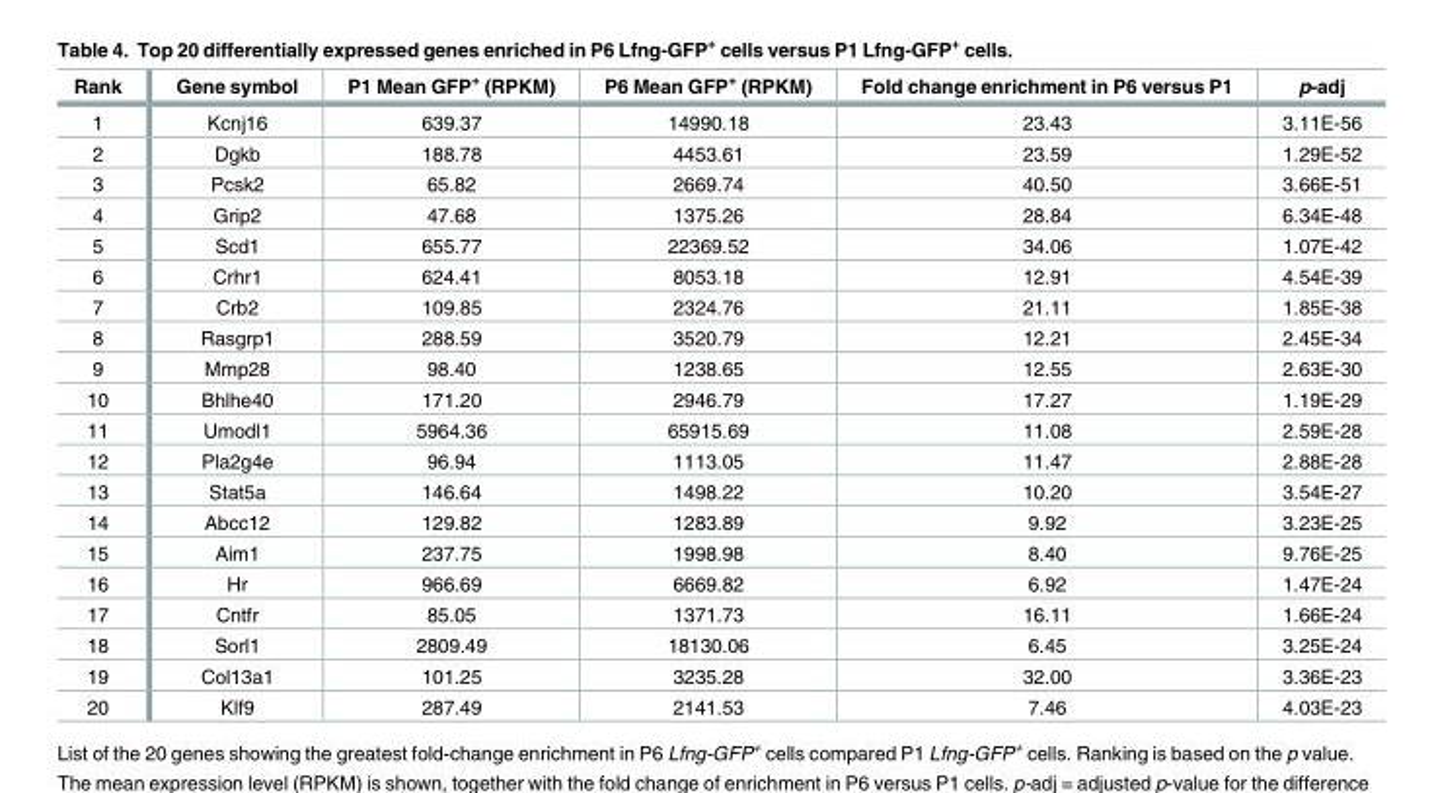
<table><thead><tr><td>Rank</td><td>Gene symbol</td><td>P1 Mean GFP<sup>+</sup> (RPKM)</td><td>P6 Mean GFP<sup>+</sup> (RPKM)</td><td>Fold change enrichment in P6 versus P1</td><td>p-adj</td></tr></thead><tbody><tr><td>1</td><td>Kcnj16</td><td>639.37</td><td>14990.18</td><td>23.43</td><td>3.11E-56</td></tr><tr><td>2</td><td>Dgkb</td><td>188.78</td><td>4453.61</td><td>23.59</td><td>1.29E-52</td></tr><tr><td>3</td><td>Pcsk2</td><td>65.82</td><td>2669.74</td><td>40.50</td><td>3.66E-51</td></tr><tr><td>4</td><td>Grip2</td><td>47.68</td><td>1375.26</td><td>28.84</td><td>6.34E-48</td></tr><tr><td>5</td><td>Scd1</td><td>655.77</td><td>22369.52</td><td>34.06</td><td>1.07E-42</td></tr><tr><td>6</td><td>Crhr1</td><td>624.41</td><td>8053.18</td><td>12.91</td><td>4.54E-39</td></tr><tr><td>7</td><td>Crb2</td><td>109.85</td><td>2324.76</td><td>21.11</td><td>1.85E-38</td></tr><tr><td>8</td><td>Rasgrp1</td><td>288.59</td><td>3520.79</td><td>12.21</td><td>2.45E-34</td></tr><tr><td>9</td><td>Mmp28</td><td>98.40</td><td>1238.65</td><td>12.55</td><td>2.63E-30</td></tr><tr><td>10</td><td>Bhlhe40</td><td>171.20</td><td>2946.79</td><td>17.27</td><td>1.19E-29</td></tr><tr><td>11</td><td>Umodl1</td><td>5964.36</td><td>65915.69</td><td>11.08</td><td>2.59E-28</td></tr><tr><td>12</td><td>Pla2g4e</td><td>96.94</td><td>1113.05</td><td>11.47</td><td>2.88E-28</td></tr><tr><td>13</td><td>Stat5a</td><td>146.64</td><td>1498.22</td><td>10.20</td><td>3.54E-27</td></tr><tr><td>14</td><td>Abcc12</td><td>129.82</td><td>1283.89</td><td>9.92</td><td>3.23E-25</td></tr><tr><td>15</td><td>Aim1</td><td>237.75</td><td>1998.98</td><td>8.40</td><td>9.76E-25</td></tr><tr><td>16</td><td>Hr</td><td>966.69</td><td>6669.82</td><td>6.92</td><td>1.47E-24</td></tr><tr><td>17</td><td>Cntfr</td><td>85.05</td><td>1371.73</td><td>16.11</td><td>1.66E-24</td></tr><tr><td>18</td><td>Sorl1</td><td>2809.49</td><td>18130.06</td><td>6.45</td><td>3.25E-24</td></tr><tr><td>19</td><td>Col13a1</td><td>101.25</td><td>3235.28</td><td>32.00</td><td>3.36E-23</td></tr><tr><td>20</td><td>Klf9</td><td>287.49</td><td>2141.53</td><td>7.46</td><td>4.03E-23</td></tr></tbody></table>